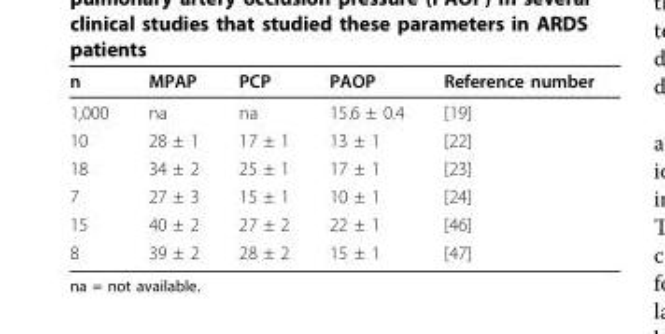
<table><thead><tr><td>n</td><td>MPAP</td><td>PCP</td><td>PAOP</td><td>Reference number</td></tr></thead><tbody><tr><td>1,000</td><td>na</td><td>na</td><td>15.6 ± 0.4</td><td>[19]</td></tr><tr><td>10</td><td>28 ± 1</td><td>17 ± 1</td><td>13 ± 1</td><td>[22]</td></tr><tr><td>18</td><td>34 ± 2</td><td>25 ± 1</td><td>17 ± 1</td><td>[23]</td></tr><tr><td>7</td><td>27 ± 3</td><td>15 ± 1</td><td>10 ± 1</td><td>[24]</td></tr><tr><td>15</td><td>40 ± 2</td><td>27 ± 2</td><td>22 ± 1</td><td>[46]</td></tr><tr><td>8</td><td>39 ± 2</td><td>28 ± 2</td><td>15 ± 1</td><td>[47]</td></tr></tbody></table>